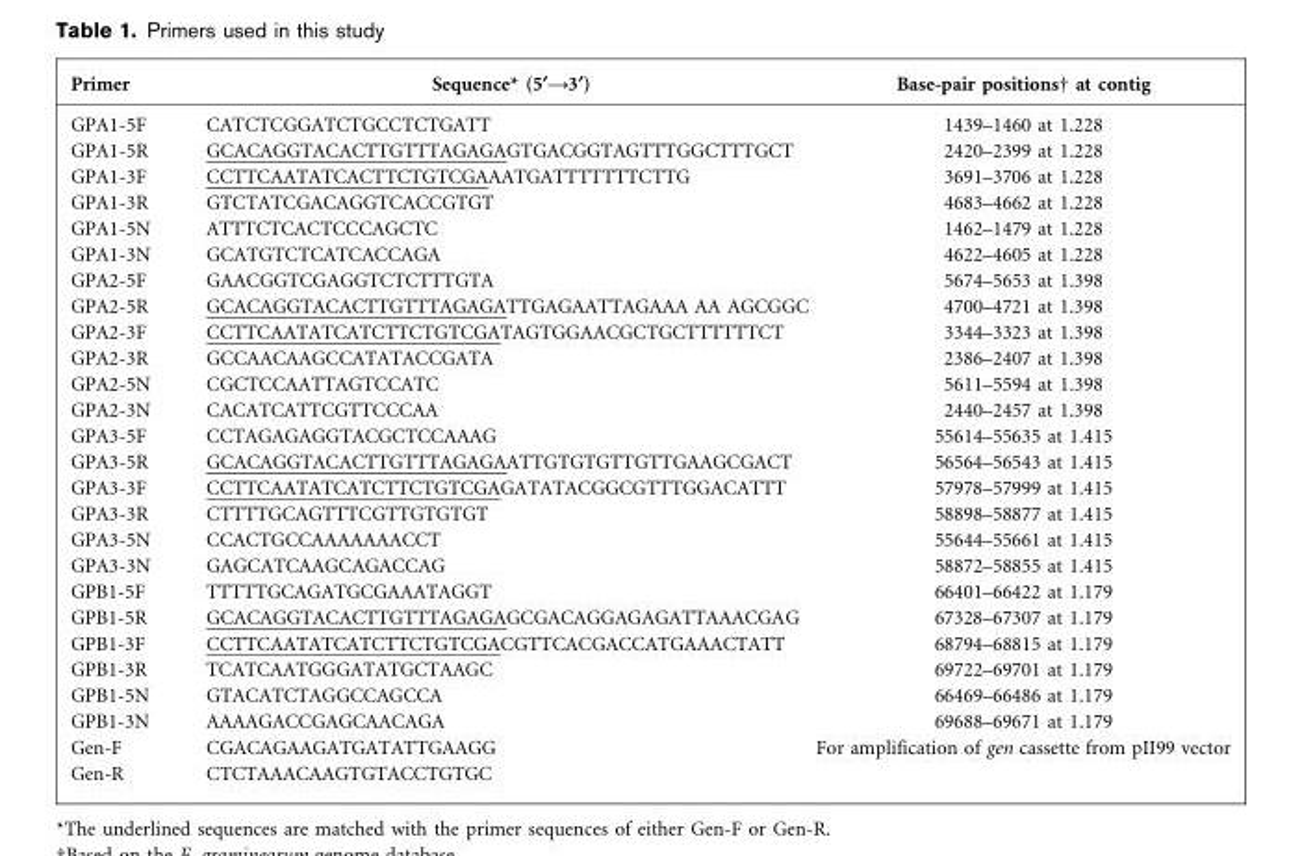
<table><thead><tr><td>Primer</td><td>Sequence* (5§A3§)</td><td>Base-pair positions† at contig</td></tr></thead><tbody><tr><td>GPA1-5F</td><td>CATCTCGGATCTGCCTCTGATT</td><td>1439–1460 at 1.228</td></tr><tr><td>GPA1-5R</td><td>GCACAGGTACACTTGTTTAGAGAGTGACGGTAGTTTGGCTTTGCT</td><td>2420–2399 at 1.228</td></tr><tr><td>GPA1-3F</td><td>CCTTCAATATCACTTCTGTCGAAATGATTTTTTTCTTG</td><td>3691–3706 at 1.228</td></tr><tr><td>GPA1-3R</td><td>GTCTATCGACAGGTCACCGTGT</td><td>4683–4662 at 1.228</td></tr><tr><td>GPA1-5N</td><td>ATTTCTCACTCCCAGCTC</td><td>1462–1479 at 1.228</td></tr><tr><td>GPA1-3N</td><td>GCATGTCTCATCACCAGA</td><td>4622–4605 at 1.228</td></tr><tr><td>GPA2-5F</td><td>GAACGGTCGAGGTCTCTTTGTA</td><td>5674–5653 at 1.398</td></tr><tr><td>GPA2-5R</td><td>GCACAGGTACACTTGTTTAGAGATTGAGAATTAGAAA AA AGCGGC</td><td>4700–4721 at 1.398</td></tr><tr><td>GPA2-3F</td><td>CCTTCAATATCATCTTCTGTCGATAGTGGAACGCTGCTTTTTTCT</td><td>3344–3323 at 1.398</td></tr><tr><td>GPA2-3R</td><td>GCCAACAAGCCATATACCGATA</td><td>2386–2407 at 1.398</td></tr><tr><td>GPA2-5N</td><td>CGCTCCAATTAGTCCATC</td><td>5611–5594 at 1.398</td></tr><tr><td>GPA2-3N</td><td>CACATCATTCGTTCCCAA</td><td>2440–2457 at 1.398</td></tr><tr><td>GPA3-5F</td><td>CCTAGAGAGGTACGCTCCAAAG</td><td>55614–55635 at 1.415</td></tr><tr><td>GPA3-5R</td><td>GCACAGGTACACTTGTTTAGAGAATTGTGTGTTGTTGAAGCGACT</td><td>56564–56543 at 1.415</td></tr><tr><td>GPA3-3F</td><td>CCTTCAATATCATCTTCTGTCGAGATATACGGCGTTTGGACATTT</td><td>57978–57999 at 1.415</td></tr><tr><td>GPA3-3R</td><td>CTTTTGCAGTTTCGTTGTGTGT</td><td>58898–58877 at 1.415</td></tr><tr><td>GPA3-5N</td><td>CCACTGCCAAAAAAACCT</td><td>55644–55661 at 1.415</td></tr><tr><td>GPA3-3N</td><td>GAGCATCAAGCAGACCAG</td><td>58872–58855 at 1.415</td></tr><tr><td>GPB1-5F</td><td>TTTTTGCAGATGCGAAATAGGT</td><td>66401–66422 at 1.179</td></tr><tr><td>GPB1-5R</td><td>GCACAGGTACACTTGTTTAGAGAGCGACAGGAGAGATTAAACGAG</td><td>67328–67307 at 1.179</td></tr><tr><td>GPB1-3F</td><td>CCTTCAATATCATCTTCTGTCGACGTTCACGACCATGAAACTATT</td><td>68794–68815 at 1.179</td></tr><tr><td>GPB1-3R</td><td>TCATCAATGGGATATGCTAAGC</td><td>69722–69701 at 1.179</td></tr><tr><td>GPB1-5N</td><td>GTACATCTAGGCCAGCCA</td><td>66469–66486 at 1.179</td></tr><tr><td>GPB1-3N</td><td>AAAAGACCGAGCAACAGA</td><td>69688–69671 at 1.179</td></tr><tr><td>Gen-F</td><td>CGACAGAAGATGATATTGAAGG</td><td>For amplification of gen cassette from pII99 vector</td></tr><tr><td>Gen-R</td><td>CTCTAAACAAGTGTACCTGTGC</td><td></td></tr></tbody></table>